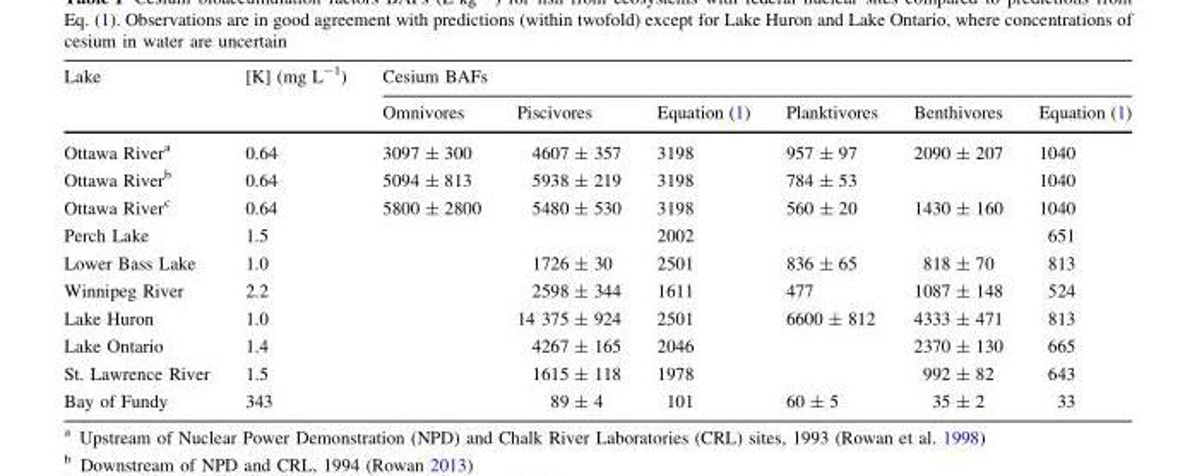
<table><thead><tr><td rowspan="2">Lake</td><td rowspan="2">[K] (mg L<sup>-1</sup>)</td><td colspan="6">Cesium BAFs</td></tr><tr><td>Omnivores</td><td>Piscivores</td><td>Equation (1)</td><td>Planktivores</td><td>Benthivores</td><td>Equation (1)</td></tr></thead><tbody><tr><td>Ottawa River<sup>a</sup></td><td>0.64</td><td>3097 ± 300</td><td>4607 ± 357</td><td>3198</td><td>957 ± 97</td><td>2090 ± 207</td><td>1040</td></tr><tr><td>Ottawa River<sup>b</sup></td><td>0.64</td><td>5094 ± 813</td><td>5938 ± 219</td><td>3198</td><td>784 ± 53</td><td></td><td>1040</td></tr><tr><td>Ottawa River<sup>c</sup></td><td>0.64</td><td>5800 ± 2800</td><td>5480 ± 530</td><td>3198</td><td>560 ± 20</td><td>1430 ± 160</td><td>1040</td></tr><tr><td>Perch Lake</td><td>1.5</td><td></td><td></td><td>2002</td><td></td><td></td><td>651</td></tr><tr><td>Lower Bass Lake</td><td>1.0</td><td></td><td>1726 ± 30</td><td>2501</td><td>836 ± 65</td><td>818 ± 70</td><td>813</td></tr><tr><td>Winnipeg River</td><td>2.2</td><td></td><td>2598 ± 344</td><td>1611</td><td>477</td><td>1087 ± 148</td><td>524</td></tr><tr><td>Lake Huron</td><td>1.0</td><td></td><td>14 375 ± 924</td><td>2501</td><td>6600 ± 812</td><td>4333 ± 471</td><td>813</td></tr><tr><td>Lake Ontario</td><td>1.4</td><td></td><td>4267 ± 165</td><td>2046</td><td></td><td>2370 ± 130</td><td>665</td></tr><tr><td>St. Lawrence River</td><td>1.5</td><td></td><td>1615 ± 118</td><td>1978</td><td></td><td>992 ± 82</td><td>643</td></tr><tr><td>Bay of Fundy</td><td>343</td><td></td><td>89 ± 4</td><td>101</td><td>60 ± 5</td><td>35 ± 2</td><td>33</td></tr></tbody></table>